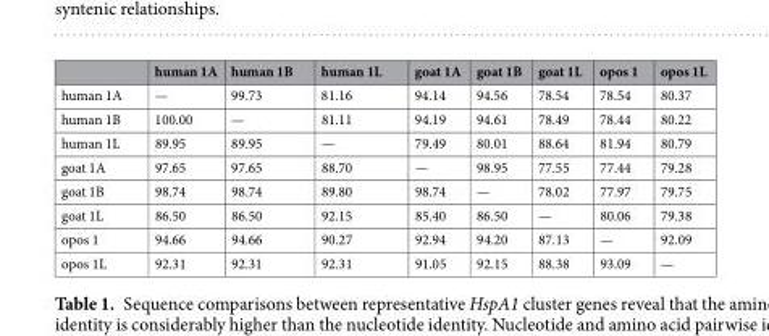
<table><thead><tr><td></td><td>human 1A</td><td>human 1B</td><td>human 1L</td><td>goat 1A</td><td>goat 1B</td><td>goat 1L</td><td>opos 1</td><td>opos 1L</td></tr></thead><tbody><tr><td>human 1A</td><td>—</td><td>99.73</td><td>81.16</td><td>94.14</td><td>94.56</td><td>78.54</td><td>78.54</td><td>80.37</td></tr><tr><td>human 1B</td><td>100.00</td><td>—</td><td>81.11</td><td>94.19</td><td>94.61</td><td>78.49</td><td>78.44</td><td>80.22</td></tr><tr><td>human 1L</td><td>89.95</td><td>89.95</td><td>—</td><td>79.49</td><td>80.01</td><td>88.64</td><td>81.94</td><td>80.79</td></tr><tr><td>goat 1A</td><td>97.65</td><td>97.65</td><td>88.70</td><td>—</td><td>98.95</td><td>77.55</td><td>77.44</td><td>79.28</td></tr><tr><td>goat 1B</td><td>98.74</td><td>98.74</td><td>89.80</td><td>98.74</td><td>—</td><td>78.02</td><td>77.97</td><td>79.75</td></tr><tr><td>goat 1L</td><td>86.50</td><td>86.50</td><td>92.15</td><td>85.40</td><td>86.50</td><td>—</td><td>80.06</td><td>79.38</td></tr><tr><td>opos 1</td><td>94.66</td><td>94.66</td><td>90.27</td><td>92.94</td><td>94.20</td><td>87.13</td><td>—</td><td>92.09</td></tr><tr><td>opos 1L</td><td>92.31</td><td>92.31</td><td>92.31</td><td>91.05</td><td>92.15</td><td>88.38</td><td>93.09</td><td>—</td></tr></tbody></table>